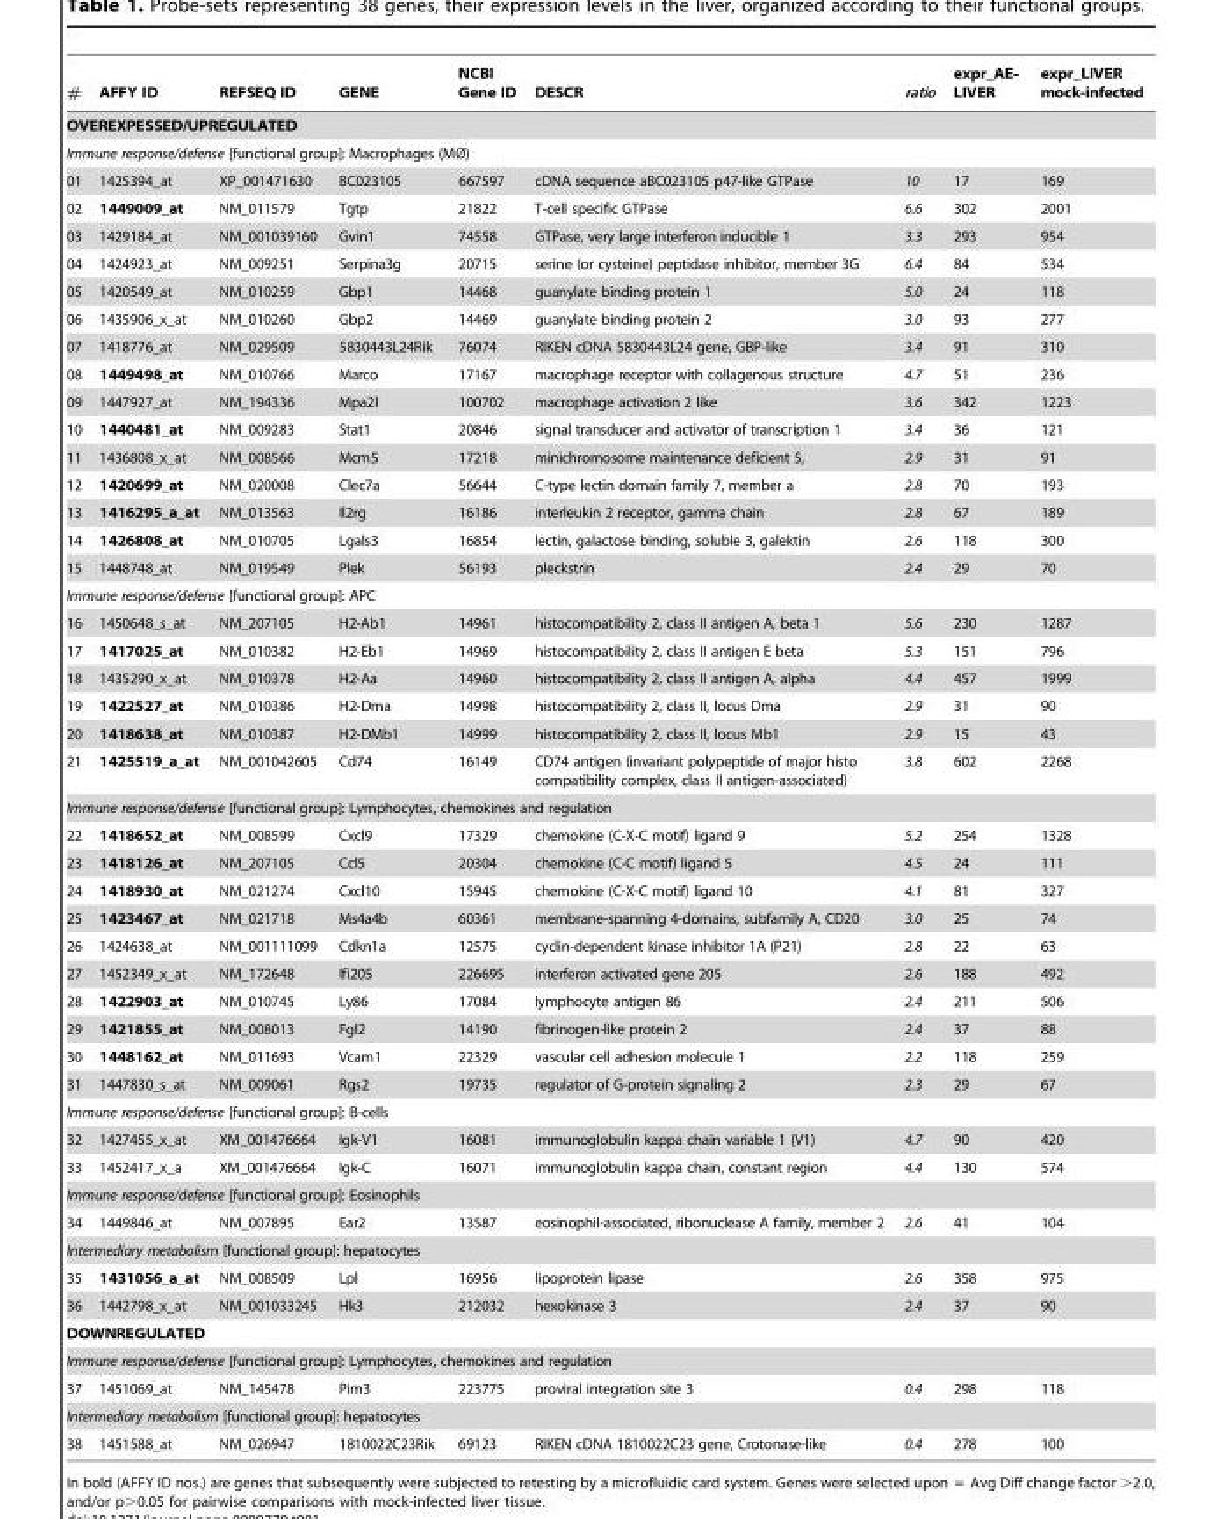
<table><thead><tr><td>#</td><td>AFFY ID</td><td>REFSEQ ID</td><td>GENE</td><td>NCBI Gene ID</td><td>DESCR</td><td>ratio</td><td>expr_AE- LIVER</td><td>expr_LIVER mock-infected</td></tr></thead><tbody><tr><td colspan="9">OVEREXPESSED/UPREGULATED</td></tr><tr><td colspan="9">Immune response/defense [functional group]: Macrophages (MØ)</td></tr><tr><td>01</td><td>1425394_at</td><td>XP_001471630</td><td>BC023105</td><td>667597</td><td>cDNA sequence aBC023105 p47-like GTPase</td><td>10</td><td>17</td><td>169</td></tr><tr><td>02</td><td>1449009_at</td><td>NM_011579</td><td>Tgtp</td><td>21822</td><td>T-cell specific GTPase</td><td>6.6</td><td>302</td><td>2001</td></tr><tr><td>03</td><td>1429184_at</td><td>NM_001039160</td><td>Gvin1</td><td>74558</td><td>GTPase, very large interferon inducible 1</td><td>3.3</td><td>293</td><td>954</td></tr><tr><td>04</td><td>1424923_at</td><td>NM_009251</td><td>Serpina3g</td><td>20715</td><td>serine (or cysteine) peptidase inhibitor, member 3G</td><td>6.4</td><td>84</td><td>534</td></tr><tr><td>05</td><td>1420549_at</td><td>NM_010259</td><td>Gbp1</td><td>14468</td><td>guanylate binding protein 1</td><td>5.0</td><td>24</td><td>118</td></tr><tr><td>06</td><td>1435906_x_at</td><td>NM_010260</td><td>Gbp2</td><td>14469</td><td>guanylate binding protein 2</td><td>3.0</td><td>93</td><td>277</td></tr><tr><td>07</td><td>1418776_at</td><td>NM_029509</td><td>5830443L24Rik</td><td>76074</td><td>RIKEN cDNA 5830443L24 gene, GBP-like</td><td>3.4</td><td>91</td><td>310</td></tr><tr><td>08</td><td>1449498_at</td><td>NM_010766</td><td>Marco</td><td>17167</td><td>macrophage receptor with collagenous structure</td><td>4.7</td><td>51</td><td>236</td></tr><tr><td>09</td><td>1447927_at</td><td>NM_194336</td><td>Mpa2l</td><td>100702</td><td>macrophage activation 2 like</td><td>3.6</td><td>342</td><td>1223</td></tr><tr><td>10</td><td>1440481_at</td><td>NM_009283</td><td>Stat1</td><td>20846</td><td>signal transducer and activator of transcription 1</td><td>3.4</td><td>36</td><td>121</td></tr><tr><td>11</td><td>1436808_x_at</td><td>NM_008566</td><td>Mcm5</td><td>17218</td><td>minichromosome maintenance deficient 5,</td><td>2.9</td><td>31</td><td>91</td></tr><tr><td>12</td><td>1420699_at</td><td>NM_020008</td><td>Clec7a</td><td>56644</td><td>C-type lectin domain family 7, member a</td><td>2.8</td><td>70</td><td>193</td></tr><tr><td>13</td><td>1416295_a_at</td><td>NM_013563</td><td>Il2rg</td><td>16186</td><td>interleukin 2 receptor, gamma chain</td><td>2.8</td><td>67</td><td>189</td></tr><tr><td>14</td><td>1426808_at</td><td>NM_010705</td><td>Lgals3</td><td>16854</td><td>lectin, galactose binding, soluble 3, galektin</td><td>2.6</td><td>118</td><td>300</td></tr><tr><td>15</td><td>1448748_at</td><td>NM_019549</td><td>Plek</td><td>56193</td><td>pleckstrin</td><td>2.4</td><td>29</td><td>70</td></tr><tr><td colspan="9">Immune response/defense [functional group]: APC</td></tr><tr><td>16</td><td>1450648_s_at</td><td>NM_207105</td><td>H2-Ab1</td><td>14961</td><td>histocompatibility 2, class II antigen A, beta 1</td><td>5.6</td><td>230</td><td>1287</td></tr><tr><td>17</td><td>1417025_at</td><td>NM_010382</td><td>H2-Eb1</td><td>14969</td><td>histocompatibility 2, class II antigen E beta</td><td>5.3</td><td>151</td><td>796</td></tr><tr><td>18</td><td>1435290_x_at</td><td>NM_010378</td><td>H2-Aa</td><td>14960</td><td>histocompatibility 2, class II antigen A, alpha</td><td>4.4</td><td>457</td><td>1999</td></tr><tr><td>19</td><td>1422527_at</td><td>NM_010386</td><td>H2-Dma</td><td>14998</td><td>histocompatibility 2, class II, locus Dma</td><td>2.9</td><td>31</td><td>90</td></tr><tr><td>20</td><td>1418638_at</td><td>NM_010387</td><td>H2-DMb1</td><td>14999</td><td>histocompatibility 2, class II, locus Mb1</td><td>2.9</td><td>15</td><td>43</td></tr><tr><td>21</td><td>1425519_a_at</td><td>NM_001042605</td><td>Cd74</td><td>16149</td><td>CD74 antigen (invariant polypeptide of major histo compatibility complex, class II antigen-associated)</td><td>3.8</td><td>602</td><td>2268</td></tr><tr><td colspan="9">Immune response/defense [functional group]: Lymphocytes, chemokines and regulation</td></tr><tr><td>22</td><td>1418652_at</td><td>NM_008599</td><td>Cxcl9</td><td>17329</td><td>chemokine (C-X-C motif) ligand 9</td><td>5.2</td><td>254</td><td>1328</td></tr><tr><td>23</td><td>1418126_at</td><td>NM_207105</td><td>Ccl5</td><td>20304</td><td>chemokine (C-C motif) ligand 5</td><td>4.5</td><td>24</td><td>111</td></tr><tr><td>24</td><td>1418930_at</td><td>NM_021274</td><td>Cxcl10</td><td>15945</td><td>chemokine (C-X-C motif) ligand 10</td><td>4.1</td><td>81</td><td>327</td></tr><tr><td>25</td><td>1423467_at</td><td>NM_021718</td><td>Ms4a4b</td><td>60361</td><td>membrane-spanning 4-domains, subfamily A, CD20</td><td>3.0</td><td>25</td><td>74</td></tr><tr><td>26</td><td>1424638_at</td><td>NM_001111099</td><td>Cdkn1a</td><td>12575</td><td>cyclin-dependent kinase inhibitor 1A (P21)</td><td>2.8</td><td>22</td><td>63</td></tr><tr><td>27</td><td>1452349_x_at</td><td>NM_172648</td><td>Ifi205</td><td>226695</td><td>interferon activated gene 205</td><td>2.6</td><td>188</td><td>492</td></tr><tr><td>28</td><td>1422903_at</td><td>NM_010745</td><td>Ly86</td><td>17084</td><td>lymphocyte antigen 86</td><td>2.4</td><td>211</td><td>506</td></tr><tr><td>29</td><td>1421855_at</td><td>NM_008013</td><td>Fgl2</td><td>14190</td><td>fibrinogen-like protein 2</td><td>2.4</td><td>37</td><td>88</td></tr><tr><td>30</td><td>1448162_at</td><td>NM_011693</td><td>Vcam1</td><td>22329</td><td>vascular cell adhesion molecule 1</td><td>2.2</td><td>118</td><td>259</td></tr><tr><td>31</td><td>1447830_s_at</td><td>NM_009061</td><td>Rgs2</td><td>19735</td><td>regulator of G-protein signaling 2</td><td>2.3</td><td>29</td><td>67</td></tr><tr><td colspan="9">Immune response/defense [functional group]: B-cells</td></tr><tr><td>32</td><td>1427455_x_at</td><td>XM_001476664</td><td>Igk-V1</td><td>16081</td><td>immunoglobulin kappa chain variable 1 (V1)</td><td>4.7</td><td>90</td><td>420</td></tr><tr><td>33</td><td>1452417_x_a</td><td>XM_001476664</td><td>Igk-C</td><td>16071</td><td>immunoglobulin kappa chain, constant region</td><td>4.4</td><td>130</td><td>574</td></tr><tr><td colspan="9">Immune response/defense [functional group]: Eosinophils</td></tr><tr><td>34</td><td>1449846_at</td><td>NM_007895</td><td>Ear2</td><td>13587</td><td>eosinophil-associated, ribonuclease A family, member 2</td><td>2.6</td><td>41</td><td>104</td></tr><tr><td colspan="9">Intermediary metabolism [functional group]: hepatocytes</td></tr><tr><td>35</td><td>1431056_a_at</td><td>NM_008509</td><td>Lpl</td><td>16956</td><td>lipoprotein lipase</td><td>2.6</td><td>358</td><td>975</td></tr><tr><td>36</td><td>1442798_x_at</td><td>NM_001033245</td><td>Hk3</td><td>212032</td><td>hexokinase 3</td><td>2.4</td><td>37</td><td>90</td></tr><tr><td colspan="9">DOWNREGULATED</td></tr><tr><td colspan="9">Immune response/defense [functional group]: Lymphocytes, chemokines and regulation</td></tr><tr><td>37</td><td>1451069_at</td><td>NM_145478</td><td>Pim3</td><td>223775</td><td>proviral integration site 3</td><td>0.4</td><td>298</td><td>118</td></tr><tr><td colspan="9">Intermediary metabolism [functional group]: hepatocytes</td></tr><tr><td>38</td><td>1451588_at</td><td>NM_026947</td><td>1810022C23Rik</td><td>69123</td><td>RIKEN cDNA 1810022C23 gene, Crotonase-like</td><td>0.4</td><td>278</td><td>100</td></tr></tbody></table>